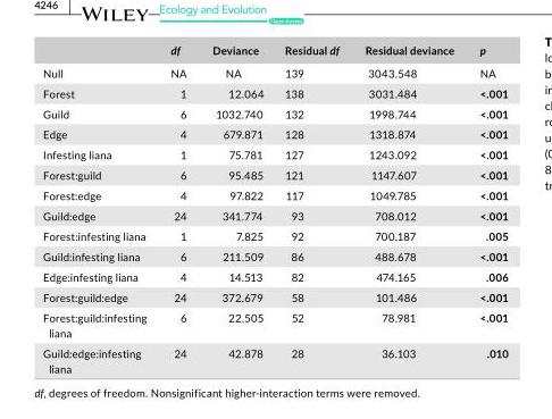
<table><thead><tr><td></td><td>df</td><td>Deviance</td><td>Residual df</td><td>Residual deviance</td><td>p</td></tr></thead><tbody><tr><td>Null</td><td>NA</td><td>NA</td><td>139</td><td>3043.548</td><td>NA</td></tr><tr><td>Forest</td><td>1</td><td>12.064</td><td>138</td><td>3031.484</td><td>&lt;.001</td></tr><tr><td>Guild</td><td>6</td><td>1032.740</td><td>132</td><td>1998.744</td><td>&lt;.001</td></tr><tr><td>Edge</td><td>4</td><td>679.871</td><td>128</td><td>1318.874</td><td>&lt;.001</td></tr><tr><td>Infesting liana</td><td>1</td><td>75.781</td><td>127</td><td>1243.092</td><td>&lt;.001</td></tr><tr><td>Forest:guild</td><td>6</td><td>95.485</td><td>121</td><td>1147.607</td><td>&lt;.001</td></tr><tr><td>Forest:edge</td><td>4</td><td>97.822</td><td>117</td><td>1049.785</td><td>&lt;.001</td></tr><tr><td>Guild:edge</td><td>24</td><td>341.774</td><td>93</td><td>708.012</td><td>&lt;.001</td></tr><tr><td>Forest:infesting liana</td><td>1</td><td>7.825</td><td>92</td><td>700.187</td><td>.005</td></tr><tr><td>Guild:infesting liana</td><td>6</td><td>211.509</td><td>86</td><td>488.678</td><td>&lt;.001</td></tr><tr><td>Edge:infesting liana</td><td>4</td><td>14.513</td><td>82</td><td>474.165</td><td>.006</td></tr><tr><td>Forest:guild:edge</td><td>24</td><td>372.679</td><td>58</td><td>101.486</td><td>&lt;.001</td></tr><tr><td>Forest:guild:infesting liana</td><td>6</td><td>22.505</td><td>52</td><td>78.981</td><td>&lt;.001</td></tr><tr><td>Guild:edge:infesting liana</td><td>24</td><td>42.878</td><td>28</td><td>36.103</td><td>.010</td></tr></tbody></table>